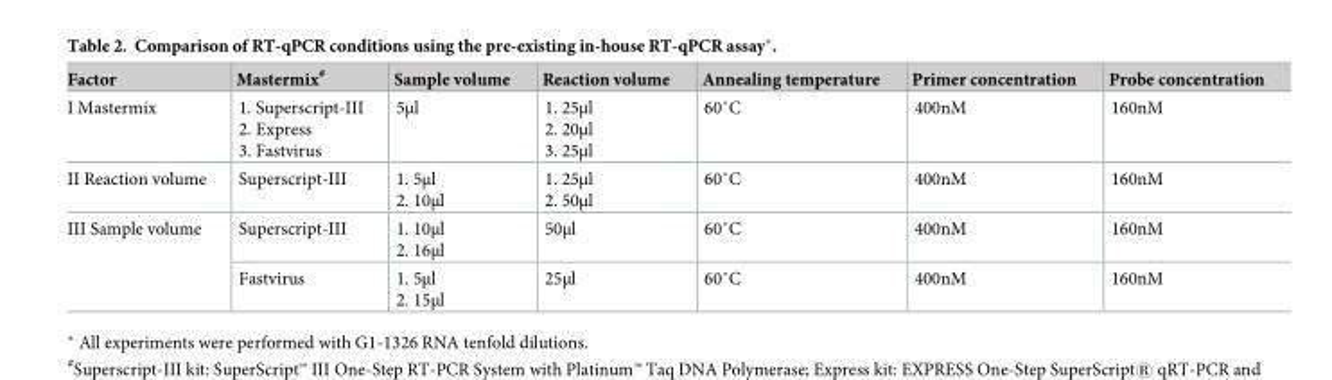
<table><thead><tr><td>Factor</td><td>Mastermix<sup>#</sup></td><td>Sample volume</td><td>Reaction volume</td><td>Annealing temperature</td><td>Primer concentration</td><td>Probe concentration</td></tr></thead><tbody><tr><td>I Mastermix</td><td>1. Superscript-III 2. Express 3. Fastvirus</td><td>5μl</td><td>1. 25μl 2. 20μl 3. 25μl</td><td>60˚C</td><td>400nM</td><td>160nM</td></tr><tr><td>II Reaction volume</td><td>Superscript-III</td><td>1. 5μl 2. 10μl</td><td>1. 25μl 2. 50μl</td><td>60˚C</td><td>400nM</td><td>160nM</td></tr><tr><td rowspan="2">III Sample volume</td><td>Superscript-III</td><td>1. 10μl 2. 16μl</td><td>50μl</td><td>60˚C</td><td>400nM</td><td>160nM</td></tr><tr><td>Fastvirus</td><td>1. 5μl 2. 15μl</td><td>25μl</td><td>60˚C</td><td>400nM</td><td>160nM</td></tr></tbody></table>